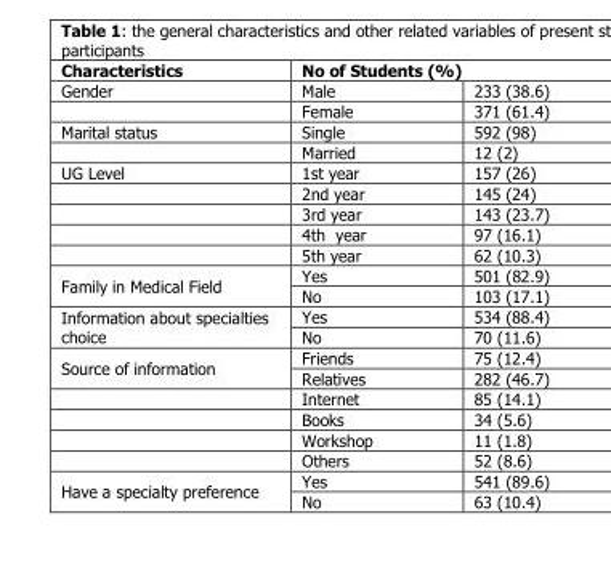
<table><thead><tr><td rowspan="2">Characteristics Gender</td><td colspan="2">No of Students (%)</td></tr><tr><td>Male</td><td>233 (38.6)</td></tr></thead><tbody><tr><td></td><td>Female</td><td>371 (61.4)</td></tr><tr><td rowspan="2">Marital status</td><td>Single</td><td>592 (98)</td></tr><tr><td>Married</td><td>12 (2)</td></tr><tr><td rowspan="5">UG Level</td><td>1st year</td><td>157 (26)</td></tr><tr><td>2nd year</td><td>145 (24)</td></tr><tr><td>3rd year</td><td>143 (23.7)</td></tr><tr><td>4th year</td><td>97 (16.1)</td></tr><tr><td>5th year</td><td>62 (10.3)</td></tr><tr><td rowspan="2">Family in Medical Field</td><td>Yes</td><td>501 (82.9)</td></tr><tr><td>No</td><td>103 (17.1)</td></tr><tr><td rowspan="2">Information about specialties choice</td><td>Yes</td><td>534 (88.4)</td></tr><tr><td>No</td><td>70 (11.6)</td></tr><tr><td rowspan="6">Source of information</td><td>Friends</td><td>75 (12.4)</td></tr><tr><td>Relatives</td><td>282 (46.7)</td></tr><tr><td>Internet</td><td>85 (14.1)</td></tr><tr><td>Books</td><td>34 (5.6)</td></tr><tr><td>Workshop</td><td>11 (1.8)</td></tr><tr><td>Others</td><td>52 (8.6)</td></tr><tr><td rowspan="2">Have a specialty preference</td><td>Yes</td><td>541 (89.6)</td></tr><tr><td>No</td><td>63 (10.4)</td></tr></tbody></table>